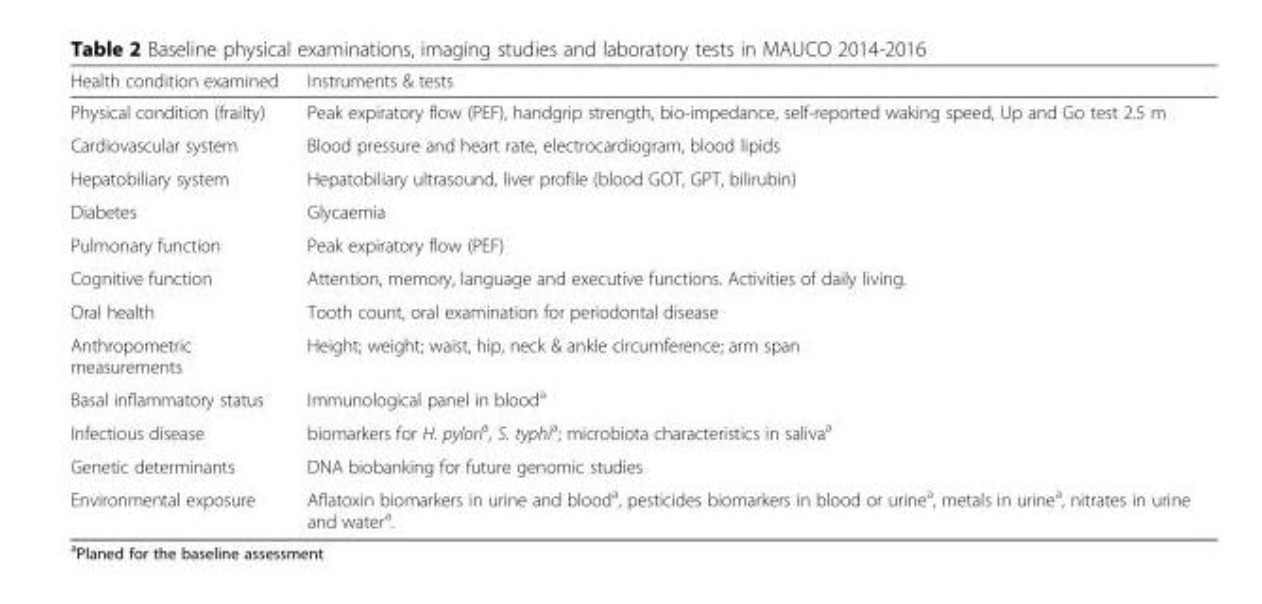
<table><thead><tr><td>Health condition examined</td><td>Instruments &amp; tests</td></tr></thead><tbody><tr><td>Physical condition (frailty)</td><td>Peak expiratory flow (PEF), handgrip strength, bio-impedance, self-reported waking speed, Up and Go test 2.5 m</td></tr><tr><td>Cardiovascular system</td><td>Blood pressure and heart rate, electrocardiogram, blood lipids</td></tr><tr><td>Hepatobiliary system</td><td>Hepatobiliary ultrasound, liver profile (blood GOT, GPT, bilirubin)</td></tr><tr><td>Diabetes</td><td>Glycaemia</td></tr><tr><td>Pulmonary function</td><td>Peak expiratory flow (PEF)</td></tr><tr><td>Cognitive function</td><td>Attention, memory, language and executive functions. Activities of daily living.</td></tr><tr><td>Oral health</td><td>Tooth count, oral examination for periodontal disease</td></tr><tr><td>Anthropometric measurements</td><td>Height; weight; waist, hip, neck &amp; ankle circumference; arm span</td></tr><tr><td>Basal inflammatory status</td><td>Immunological panel in blood<sup>a</sup></td></tr><tr><td>Infectious disease</td><td>biomarkers for H. pylori<sup>a</sup>, S. typhi<sup>a</sup>; microbiota characteristics in saliva<sup>a</sup></td></tr><tr><td>Genetic determinants</td><td>DNA biobanking for future genomic studies</td></tr><tr><td>Environmental exposure</td><td>Aflatoxin biomarkers in urine and blood<sup>a</sup>, pesticides biomarkers in blood or urine<sup>a</sup>, metals in urine<sup>a</sup>, nitrates in urine and water<sup>a</sup>.</td></tr></tbody></table>